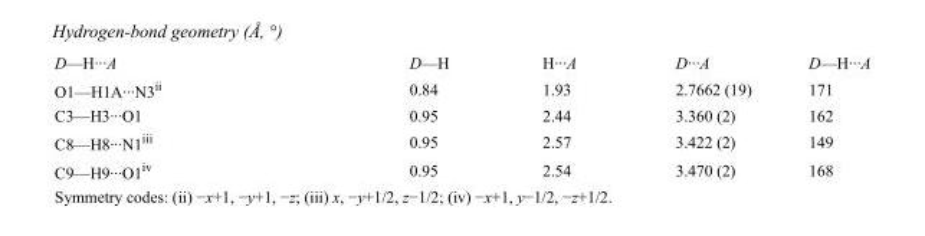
<table><tbody><tr><td>D—H···A</td><td>D—H</td><td>H···A</td><td>D···A</td><td>D—H···A</td></tr><tr><td>O1—H1A···N3<sup>ii</sup></td><td>0.84</td><td>1.93</td><td>2.7662 (19)</td><td>171</td></tr><tr><td>C3—H3···O1</td><td>0.95</td><td>2.44</td><td>3.360 (2)</td><td>162</td></tr><tr><td>C8—H8···N1<sup>iii</sup></td><td>0.95</td><td>2.57</td><td>3.422 (2)</td><td>149</td></tr><tr><td>C9—H9···O1<sup>iv</sup></td><td>0.95</td><td>2.54</td><td>3.470 (2)</td><td>168</td></tr></tbody></table>